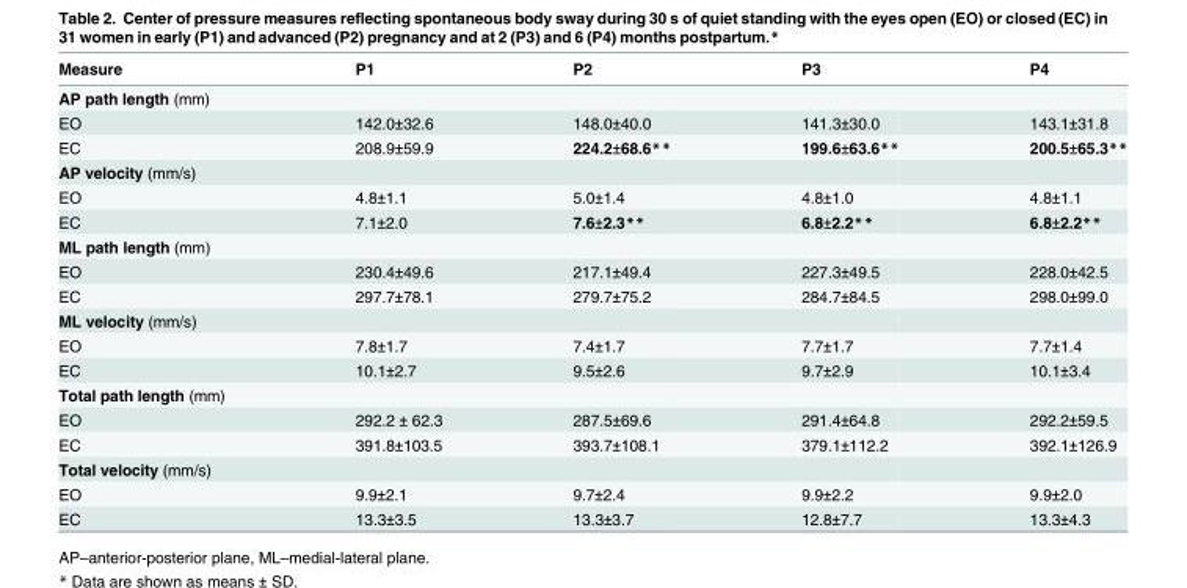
<table><thead><tr><td>Measure</td><td>P1</td><td>P2</td><td>P3</td><td>P4</td></tr></thead><tbody><tr><td colspan="5">AP path length (mm)</td></tr><tr><td>EO</td><td>142.0±32.6</td><td>148.0±40.0</td><td>141.3±30.0</td><td>143.1±31.8</td></tr><tr><td>EC</td><td>208.9±59.9</td><td>224.2±68.6**</td><td>199.6±63.6**</td><td>200.5±65.3**</td></tr><tr><td colspan="5">AP velocity (mm/s)</td></tr><tr><td>EO</td><td>4.8±1.1</td><td>5.0±1.4</td><td>4.8±1.0</td><td>4.8±1.1</td></tr><tr><td>EC</td><td>7.1±2.0</td><td>7.6±2.3**</td><td>6.8±2.2**</td><td>6.8±2.2**</td></tr><tr><td colspan="5">ML path length (mm)</td></tr><tr><td>EO</td><td>230.4±49.6</td><td>217.1±49.4</td><td>227.3±49.5</td><td>228.0±42.5</td></tr><tr><td>EC</td><td>297.7±78.1</td><td>279.7±75.2</td><td>284.7±84.5</td><td>298.0±99.0</td></tr><tr><td colspan="5">ML velocity (mm/s)</td></tr><tr><td>EO</td><td>7.8±1.7</td><td>7.4±1.7</td><td>7.7±1.7</td><td>7.7±1.4</td></tr><tr><td>EC</td><td>10.1±2.7</td><td>9.5±2.6</td><td>9.7±2.9</td><td>10.1±3.4</td></tr><tr><td colspan="5">Total path length (mm)</td></tr><tr><td>EO</td><td>292.2 ± 62.3</td><td>287.5±69.6</td><td>291.4±64.8</td><td>292.2±59.5</td></tr><tr><td>EC</td><td>391.8±103.5</td><td>393.7±108.1</td><td>379.1±112.2</td><td>392.1±126.9</td></tr><tr><td colspan="5">Total velocity (mm/s)</td></tr><tr><td>EO</td><td>9.9±2.1</td><td>9.7±2.4</td><td>9.9±2.2</td><td>9.9±2.0</td></tr><tr><td>EC</td><td>13.3±3.5</td><td>13.3±3.7</td><td>12.8±7.7</td><td>13.3±4.3</td></tr></tbody></table>